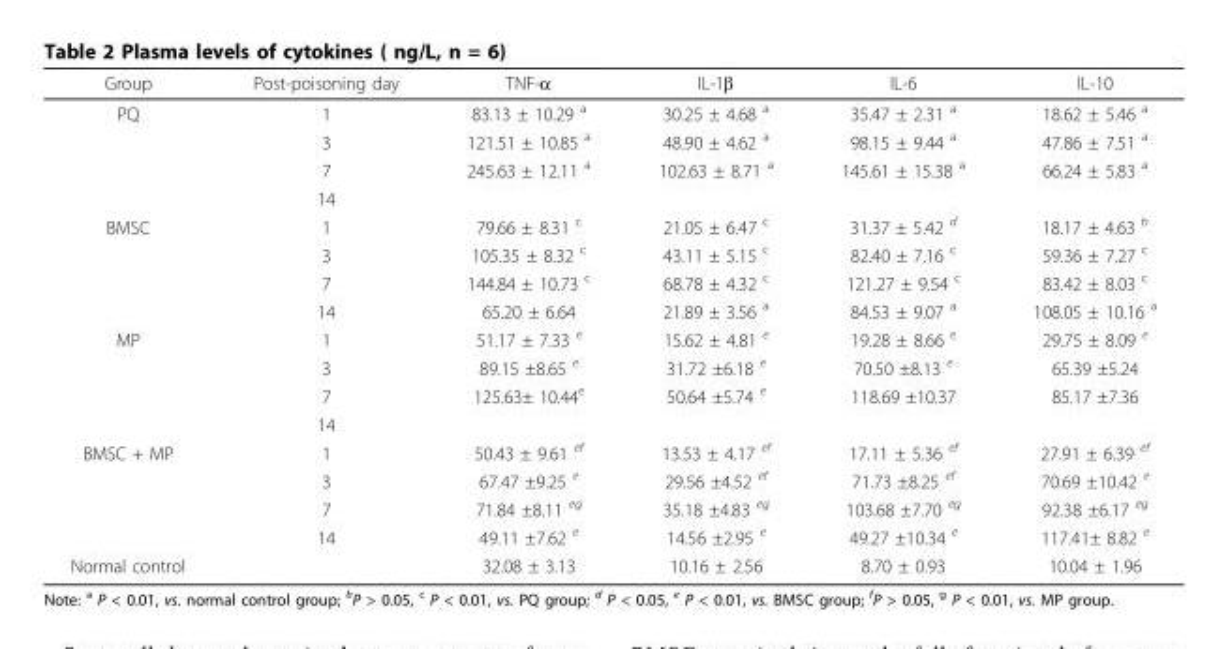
<table><thead><tr><td>Group</td><td>Post-poisoning day</td><td>TNF-α</td><td>IL-1β</td><td>IL-6</td><td>IL-10</td></tr></thead><tbody><tr><td rowspan="4">PQ</td><td>1</td><td>83.13 ± 10.29 <sup>a</sup></td><td>30.25 ± 4.68 <sup>a</sup></td><td>35.47 ± 2.31 <sup>a</sup></td><td>18.62 ± 5.46 <sup>a</sup></td></tr><tr><td>3</td><td>121.51 ± 10.85 <sup>a</sup></td><td>48.90 ± 4.62 <sup>a</sup></td><td>98.15 ± 9.44 <sup>a</sup></td><td>47.86 ± 7.51 <sup>a</sup></td></tr><tr><td>7</td><td>245.63 ± 12.11 <sup>a</sup></td><td>102.63 ± 8.71 <sup>a</sup></td><td>145.61 ± 15.38 <sup>a</sup></td><td>66.24 ± 5.83 <sup>a</sup></td></tr><tr><td>14</td><td></td><td></td><td></td><td></td></tr><tr><td rowspan="4">BMSC</td><td>1</td><td>79.66 ± 8.31 <sup>c</sup></td><td>21.05 ± 6.47 <sup>c</sup></td><td>31.37 ± 5.42 <sup>d</sup></td><td>18.17 ± 4.63 <sup>b</sup></td></tr><tr><td>3</td><td>105.35 ± 8.32 <sup>c</sup></td><td>43.11 ± 5.15 <sup>c</sup></td><td>82.40 ± 7.16 <sup>c</sup></td><td>59.36 ± 7.27 <sup>c</sup></td></tr><tr><td>7</td><td>144.84 ± 10.73 <sup>c</sup></td><td>68.78 ± 4.32 <sup>c</sup></td><td>121.27 ± 9.54 <sup>c</sup></td><td>83.42 ± 8.03 <sup>c</sup></td></tr><tr><td>14</td><td>65.20 ± 6.64</td><td>21.89 ± 3.56 <sup>a</sup></td><td>84.53 ± 9.07 <sup>a</sup></td><td>108.05 ± 10.16 <sup>a</sup></td></tr><tr><td rowspan="4">MP</td><td>1</td><td>51.17 ± 7.33 <sup>e</sup></td><td>15.62 ± 4.81 <sup>e</sup></td><td>19.28 ± 8.66 <sup>e</sup></td><td>29.75 ± 8.09 <sup>e</sup></td></tr><tr><td>3</td><td>89.15 ±8.65 <sup>e</sup></td><td>31.72 ±6.18 <sup>e</sup></td><td>70.50 ±8.13 <sup>e</sup></td><td>65.39 ±5.24</td></tr><tr><td>7</td><td>125.63± 10.44<sup>e</sup></td><td>50.64 ±5.74 <sup>e</sup></td><td>118.69 ±10.37</td><td>85.17 ±7.36</td></tr><tr><td>14</td><td></td><td></td><td></td><td></td></tr><tr><td rowspan="4">BMSC + MP</td><td>1</td><td>50.43 ± 9.61 <sup>ef</sup></td><td>13.53 ± 4.17 <sup>ef</sup></td><td>17.11 ± 5.36 <sup>ef</sup></td><td>27.91 ± 6.39 <sup>ef</sup></td></tr><tr><td>3</td><td>67.47 ±9.25 <sup>e</sup></td><td>29.56 ±4.52 <sup>ef</sup></td><td>71.73 ±8.25 <sup>ef</sup></td><td>70.69 ±10.42 <sup>e</sup></td></tr><tr><td>7</td><td>71.84 ±8.11 <sup>eg</sup></td><td>35.18 ±4.83 <sup>eg</sup></td><td>103.68 ±7.70 <sup>eg</sup></td><td>92.38 ±6.17 <sup>eg</sup></td></tr><tr><td>14</td><td>49.11 ±7.62 <sup>e</sup></td><td>14.56 ±2.95 <sup>e</sup></td><td>49.27 ±10.34 <sup>e</sup></td><td>117.41± 8.82 <sup>e</sup></td></tr><tr><td>Normal control</td><td></td><td>32.08 ± 3.13</td><td>10.16 ± 2.56</td><td>8.70 ± 0.93</td><td>10.04 ± 1.96</td></tr></tbody></table>